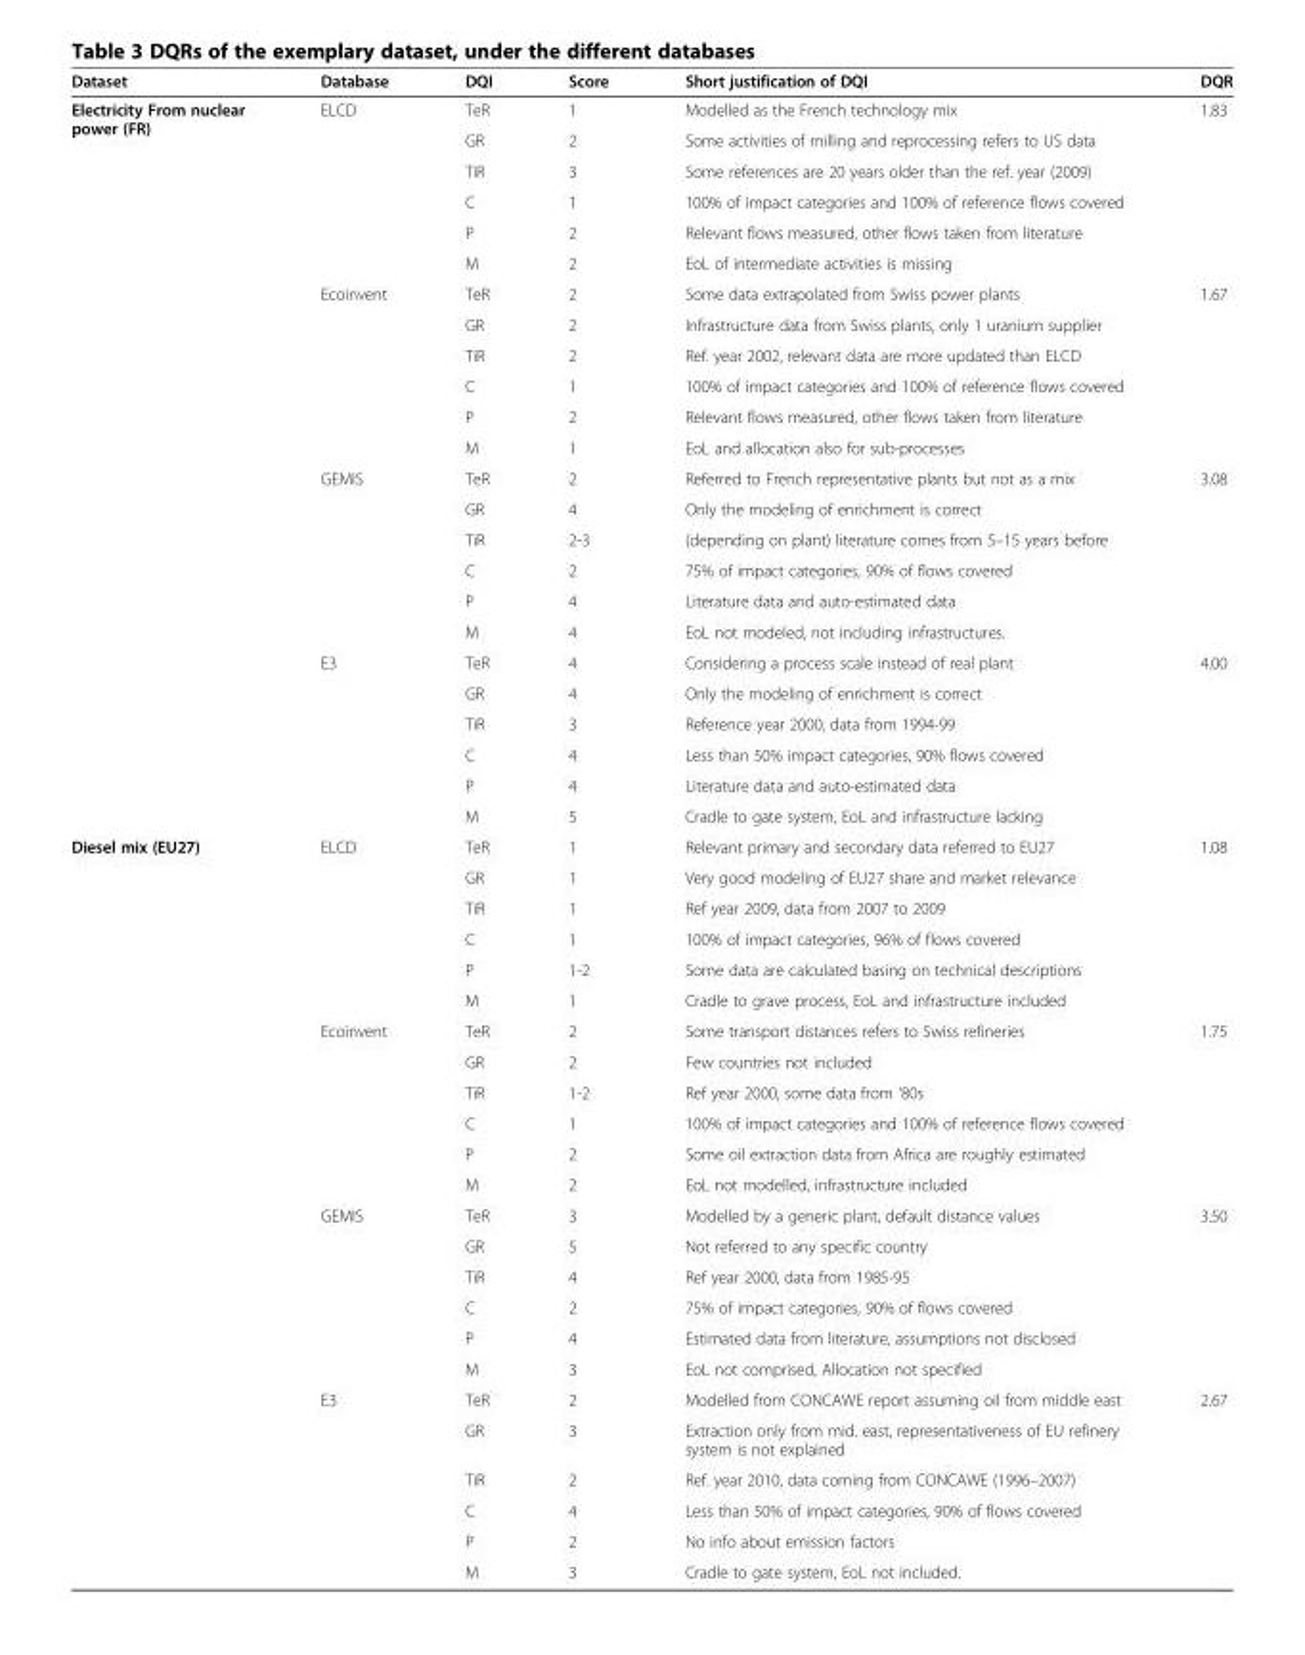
<table><thead><tr><td>Dataset</td><td>Database</td><td>DQI</td><td>Score</td><td>Short justification of DQI</td><td>DQR</td></tr></thead><tbody><tr><td rowspan="24">Electricity From nuclear power (FR)</td><td rowspan="6">ELCD</td><td>TeR</td><td>1</td><td>Modelled as the French technology mix</td><td rowspan="6">1.83</td></tr><tr><td>GR</td><td>2</td><td>Some activities of milling and reprocessing refers to US data</td></tr><tr><td>TiR</td><td>3</td><td>Some references are 20 years older than the ref. year (2009)</td></tr><tr><td>C</td><td>1</td><td>100% of impact categories and 100% of reference flows covered</td></tr><tr><td>P</td><td>2</td><td>Relevant flows measured, other flows taken from literature</td></tr><tr><td>M</td><td>2</td><td>EoL of intermediate activities is missing</td></tr><tr><td rowspan="6">Ecoinvent</td><td>TeR</td><td>2</td><td>Some data extrapolated from Swiss power plants</td><td rowspan="6">1.67</td></tr><tr><td>GR</td><td>2</td><td>Infrastructure data from Swiss plants, only 1 uranium supplier</td></tr><tr><td>TiR</td><td>2</td><td>Ref. year 2002, relevant data are more updated than ELCD</td></tr><tr><td>C</td><td>1</td><td>100% of impact categories and 100% of reference flows covered</td></tr><tr><td>P</td><td>2</td><td>Relevant flows measured, other flows taken from literature</td></tr><tr><td>M</td><td>1</td><td>EoL and allocation also for sub-processes</td></tr><tr><td rowspan="6">GEMIS</td><td>TeR</td><td>2</td><td>Referred to French representative plants but not as a mix</td><td rowspan="6">3.08</td></tr><tr><td>GR</td><td>4</td><td>Only the modeling of enrichment is correct</td></tr><tr><td>TiR</td><td>2-3</td><td>(depending on plant) literature comes from 5–15 years before</td></tr><tr><td>C</td><td>2</td><td>75% of impact categories, 90% of flows covered</td></tr><tr><td>P</td><td>4</td><td>Literature data and auto-estimated data</td></tr><tr><td>M</td><td>4</td><td>EoL not modeled, not including infrastructures.</td></tr><tr><td rowspan="6">E3</td><td>TeR</td><td>4</td><td>Considering a process scale instead of real plant</td><td rowspan="6">4.00</td></tr><tr><td>GR</td><td>4</td><td>Only the modeling of enrichment is correct</td></tr><tr><td>TiR</td><td>3</td><td>Reference year 2000, data from 1994-99</td></tr><tr><td>C</td><td>4</td><td>Less than 50% impact categories, 90% flows covered</td></tr><tr><td>P</td><td>4</td><td>Literature data and auto-estimated data</td></tr><tr><td>M</td><td>5</td><td>Cradle to gate system, EoL and infrastructure lacking</td></tr><tr><td rowspan="24">Diesel mix (EU27)</td><td rowspan="6">ELCD</td><td>TeR</td><td>1</td><td>Relevant primary and secondary data referred to EU27</td><td rowspan="6">1.08</td></tr><tr><td>GR</td><td>1</td><td>Very good modeling of EU27 share and market relevance</td></tr><tr><td>TiR</td><td>1</td><td>Ref year 2009, data from 2007 to 2009</td></tr><tr><td>C</td><td>1</td><td>100% of impact categories, 96% of flows covered</td></tr><tr><td>P</td><td>1-2</td><td>Some data are calculated basing on technical descriptions</td></tr><tr><td>M</td><td>1</td><td>Cradle to grave process, EoL and infrastructure included</td></tr><tr><td rowspan="6">Ecoinvent</td><td>TeR</td><td>2</td><td>Some transport distances refers to Swiss refineries</td><td rowspan="6">1.75</td></tr><tr><td>GR</td><td>2</td><td>Few countries not included</td></tr><tr><td>TiR</td><td>1-2</td><td>Ref year 2000, some data from ‘80s</td></tr><tr><td>C</td><td>1</td><td>100% of impact categories and 100% of reference flows covered</td></tr><tr><td>P</td><td>2</td><td>Some oil extraction data from Africa are roughly estimated</td></tr><tr><td>M</td><td>2</td><td>EoL not modelled, infrastructure included</td></tr><tr><td rowspan="6">GEMIS</td><td>TeR</td><td>3</td><td>Modelled by a generic plant, default distance values</td><td rowspan="6">3.50</td></tr><tr><td>GR</td><td>5</td><td>Not referred to any specific country</td></tr><tr><td>TiR</td><td>4</td><td>Ref year 2000, data from 1985-95</td></tr><tr><td>C</td><td>2</td><td>75% of impact categories, 90% of flows covered</td></tr><tr><td>P</td><td>4</td><td>Estimated data from literature, assumptions not disclosed</td></tr><tr><td>M</td><td>3</td><td>EoL not comprised, Allocation not specified</td></tr><tr><td rowspan="6">E3</td><td>TeR</td><td>2</td><td>Modelled from CONCAWE report assuming oil from middle east</td><td rowspan="6">2.67</td></tr><tr><td>GR</td><td>3</td><td>Extraction only from mid. east, representativeness of EU refinery system is not explained</td></tr><tr><td>TiR</td><td>2</td><td>Ref. year 2010, data coming from CONCAWE (1996–2007)</td></tr><tr><td>C</td><td>4</td><td>Less than 50% of impact categories, 90% of flows covered</td></tr><tr><td>P</td><td>2</td><td>No info about emission factors</td></tr><tr><td>M</td><td>3</td><td>Cradle to gate system, EoL not included.</td></tr></tbody></table>